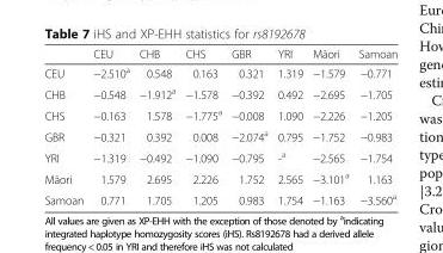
<table><thead><tr><td></td><td>CEU</td><td>CHB</td><td>CHS</td><td>GBR</td><td>YRI</td><td>Māori</td><td>Samoan</td></tr></thead><tbody><tr><td>CEU</td><td>−2.510<sup>a</sup></td><td>0.548</td><td>0.163</td><td>0.321</td><td>1.319</td><td>−1.579</td><td>−0.771</td></tr><tr><td>CHB</td><td>−0.548</td><td>−1.912<sup>a</sup></td><td>−1.578</td><td>−0.392</td><td>0.492</td><td>−2.695</td><td>−1.705</td></tr><tr><td>CHS</td><td>−0.163</td><td>1.578</td><td>−1.775<sup>a</sup></td><td>−0.008</td><td>1.090</td><td>−2.226</td><td>−1.205</td></tr><tr><td>GBR</td><td>−0.321</td><td>0.392</td><td>0.008</td><td>−2.074<sup>a</sup></td><td>0.795</td><td>−1.752</td><td>−0.983</td></tr><tr><td>YRI</td><td>−1.319</td><td>−0.492</td><td>−1.090</td><td>−0.795</td><td>-<sup>a</sup></td><td>−2.565</td><td>−1.754</td></tr><tr><td>Māori</td><td>1.579</td><td>2.695</td><td>2.226</td><td>1.752</td><td>2.565</td><td>−3.101<sup>a</sup></td><td>1.163</td></tr><tr><td>Samoan</td><td>0.771</td><td>1.705</td><td>1.205</td><td>0.983</td><td>1.754</td><td>−1.163</td><td>−3.560<sup>a</sup></td></tr></tbody></table>